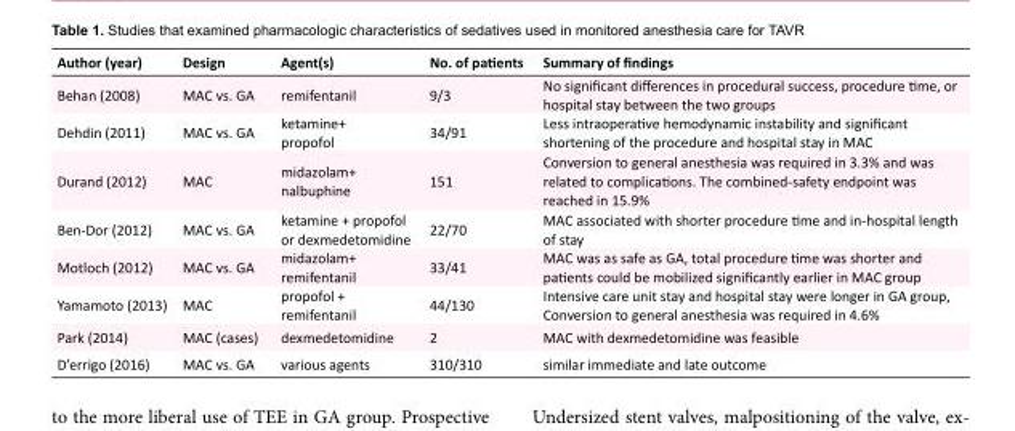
<table><tbody><tr><td>Author (year)</td><td>Design</td><td>Agent(s)</td><td>No. of patients</td><td>Summary of findings</td></tr><tr><td>Behan (2008)</td><td>MAC vs. GA</td><td>remifentanil</td><td>9/3</td><td>No significant differences in procedural success, procedure time, or hospital stay between the two groups</td></tr><tr><td>Dehdin (2011)</td><td>MAC vs. GA</td><td>ketamine+ propofol</td><td>34/91</td><td>Less intraoperative hemodynamic instability and significant shortening of the procedure and hospital stay in MAC</td></tr><tr><td>Durand (2012)</td><td>MAC</td><td>midazolam+ nalbuphine</td><td>151</td><td>Conversion to general anesthesia was required in 3.3% and was related to complications. The combined-safety endpoint was reached in 15.9%</td></tr><tr><td>Ben-Dor (2012)</td><td>MAC vs. GA</td><td>ketamine + propofol or dexmedetomidine</td><td>22/70</td><td>MAC associated with shorter procedure time and in-hospital length of stay</td></tr><tr><td>Motloch (2012)</td><td>MAC vs. GA</td><td>midazolam+ remifentanil</td><td>33/41</td><td>MAC was as safe as GA, total procedure time was shorter and patients could be mobilized significantly earlier in MAC group</td></tr><tr><td>Yamamoto (2013)</td><td>MAC</td><td>propofol + remifentanil</td><td>44/130</td><td>Intensive care unit stay and hospital stay were longer in GA group, Conversion to general anesthesia was required in 4.6%</td></tr><tr><td>Park (2014)</td><td>MAC (cases)</td><td>dexmedetomidine</td><td>2</td><td>MAC with dexmedetomidine was feasible</td></tr><tr><td>D’errigo (2016)</td><td>MAC vs. GA</td><td>various agents</td><td>310/310</td><td>similar immediate and late outcome</td></tr></tbody></table>